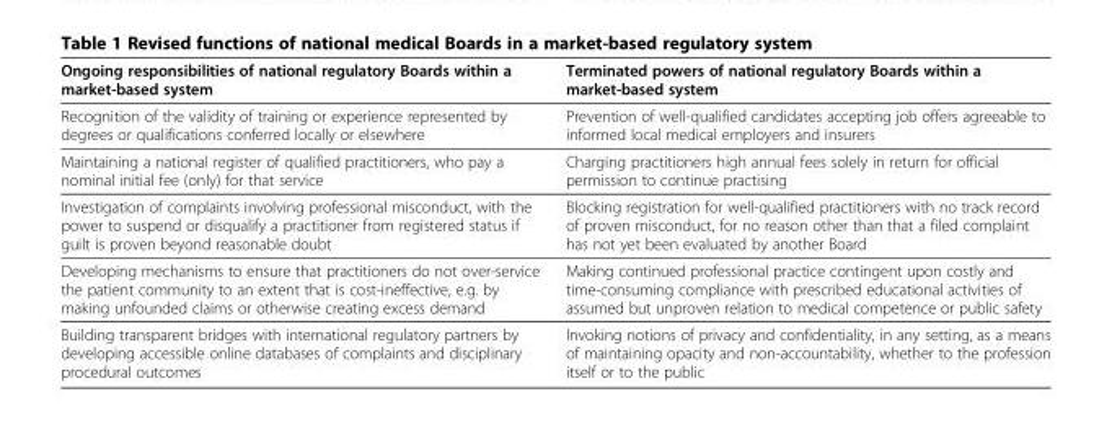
<table><thead><tr><td>Ongoing responsibilities of national regulatory Boards within a market-based system</td><td>Terminated powers of national regulatory Boards within a market-based system</td></tr></thead><tbody><tr><td>Recognition of the validity of training or experience represented by degrees or qualifications conferred locally or elsewhere</td><td>Prevention of well-qualified candidates accepting job offers agreeable to informed local medical employers and insurers</td></tr><tr><td>Maintaining a national register of qualified practitioners, who pay a nominal initial fee (only) for that service</td><td>Charging practitioners high annual fees solely in return for official permission to continue practising</td></tr><tr><td>Investigation of complaints involving professional misconduct, with the power to suspend or disqualify a practitioner from registered status if guilt is proven beyond reasonable doubt</td><td>Blocking registration for well-qualified practitioners with no track record of proven misconduct, for no reason other than that a filed complaint has not yet been evaluated by another Board</td></tr><tr><td>Developing mechanisms to ensure that practitioners do not over-service the patient community to an extent that is cost-ineffective, e.g. by making unfounded claims or otherwise creating excess demand</td><td>Making continued professional practice contingent upon costly and time-consuming compliance with prescribed educational activities of assumed but unproven relation to medical competence or public safety</td></tr><tr><td>Building transparent bridges with international regulatory partners by developing accessible online databases of complaints and disciplinary procedural outcomes</td><td>Invoking notions of privacy and confidentiality, in any setting, as a means of maintaining opacity and non-accountability, whether to the profession itself or to the public</td></tr></tbody></table>